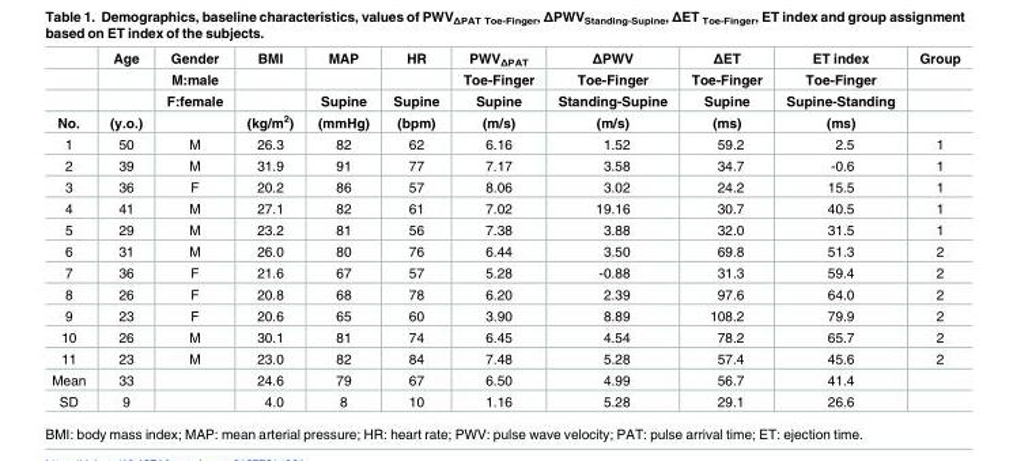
<table><thead><tr><td rowspan="4">No.</td><td rowspan="4">Age (y.o.)</td><td rowspan="4">Gender M:male F:female</td><td rowspan="4">BMI (kg/m<sup>2</sup>)</td><td rowspan="4">MAP Supine (mmHg)</td><td rowspan="4">HR Supine (bpm)</td><td rowspan="4">PWV<sub>ΔPAT</sub> Toe-Finger Supine (m/s)</td><td rowspan="4">ΔPWV Toe-Finger Standing-Supine (m/s)</td><td rowspan="4">ΔET Toe-Finger Supine (ms)</td><td rowspan="4">ET index Toe-Finger Supine-Standing (ms)</td><td rowspan="4">Group</td></tr><tr></tr><tr></tr><tr></tr></thead><tbody><tr><td>1</td><td>50</td><td>M</td><td>26.3</td><td>82</td><td>62</td><td>6.16</td><td>1.52</td><td>59.2</td><td>2.5</td><td>1</td></tr><tr><td>2</td><td>39</td><td>M</td><td>31.9</td><td>91</td><td>77</td><td>7.17</td><td>3.58</td><td>34.7</td><td>-0.6</td><td>1</td></tr><tr><td>3</td><td>36</td><td>F</td><td>20.2</td><td>86</td><td>57</td><td>8.06</td><td>3.02</td><td>24.2</td><td>15.5</td><td>1</td></tr><tr><td>4</td><td>41</td><td>M</td><td>27.1</td><td>82</td><td>61</td><td>7.02</td><td>19.16</td><td>30.7</td><td>40.5</td><td>1</td></tr><tr><td>5</td><td>29</td><td>M</td><td>23.2</td><td>81</td><td>56</td><td>7.38</td><td>3.88</td><td>32.0</td><td>31.5</td><td>1</td></tr><tr><td>6</td><td>31</td><td>M</td><td>26.0</td><td>80</td><td>76</td><td>6.44</td><td>3.50</td><td>69.8</td><td>51.3</td><td>2</td></tr><tr><td>7</td><td>36</td><td>F</td><td>21.6</td><td>67</td><td>57</td><td>5.28</td><td>-0.88</td><td>31.3</td><td>59.4</td><td>2</td></tr><tr><td>8</td><td>26</td><td>F</td><td>20.8</td><td>68</td><td>78</td><td>6.20</td><td>2.39</td><td>97.6</td><td>64.0</td><td>2</td></tr><tr><td>9</td><td>23</td><td>F</td><td>20.6</td><td>65</td><td>60</td><td>3.90</td><td>8.89</td><td>108.2</td><td>79.9</td><td>2</td></tr><tr><td>10</td><td>26</td><td>M</td><td>30.1</td><td>81</td><td>74</td><td>6.45</td><td>4.54</td><td>78.2</td><td>65.7</td><td>2</td></tr><tr><td>11</td><td>23</td><td>M</td><td>23.0</td><td>82</td><td>84</td><td>7.48</td><td>5.28</td><td>57.4</td><td>45.6</td><td>2</td></tr><tr><td>Mean</td><td>33</td><td></td><td>24.6</td><td>79</td><td>67</td><td>6.50</td><td>4.99</td><td>56.7</td><td>41.4</td><td></td></tr><tr><td>SD</td><td>9</td><td></td><td>4.0</td><td>8</td><td>10</td><td>1.16</td><td>5.28</td><td>29.1</td><td>26.6</td><td></td></tr></tbody></table>